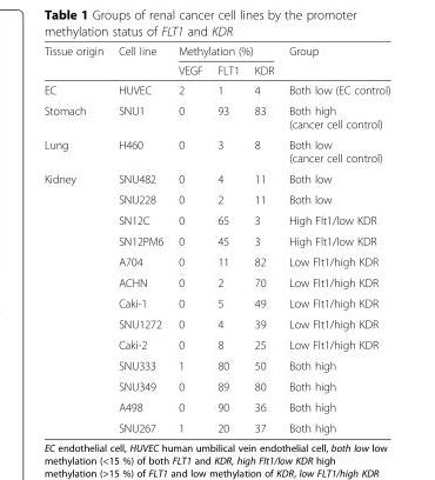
<table><thead><tr><td rowspan="2">Tissue origin</td><td rowspan="2">Cell line</td><td colspan="3">Methylation (%)</td><td rowspan="2">Group</td></tr><tr><td>VEGF</td><td>FLT1</td><td>KDR</td></tr></thead><tbody><tr><td>EC</td><td>HUVEC</td><td>2</td><td>1</td><td>4</td><td>Both low (EC control)</td></tr><tr><td>Stomach</td><td>SNU1</td><td>0</td><td>93</td><td>83</td><td>Both high (cancer cell control)</td></tr><tr><td>Lung</td><td>H460</td><td>0</td><td>3</td><td>8</td><td>Both low (cancer cell control)</td></tr><tr><td rowspan="13">Kidney</td><td>SNU482</td><td>0</td><td>4</td><td>11</td><td>Both low</td></tr><tr><td>SNU228</td><td>0</td><td>2</td><td>11</td><td>Both low</td></tr><tr><td>SN12C</td><td>0</td><td>65</td><td>3</td><td>High Flt1/low KDR</td></tr><tr><td>SN12PM6</td><td>0</td><td>45</td><td>3</td><td>High Flt1/low KDR</td></tr><tr><td>A704</td><td>0</td><td>11</td><td>82</td><td>Low Flt1/high KDR</td></tr><tr><td>ACHN</td><td>0</td><td>2</td><td>70</td><td>Low Flt1/high KDR</td></tr><tr><td>Caki-1</td><td>0</td><td>5</td><td>49</td><td>Low Flt1/high KDR</td></tr><tr><td>SNU1272</td><td>0</td><td>4</td><td>39</td><td>Low Flt1/high KDR</td></tr><tr><td>Caki-2</td><td>0</td><td>8</td><td>25</td><td>Low Flt1/high KDR</td></tr><tr><td>SNU333</td><td>1</td><td>80</td><td>50</td><td>Both high</td></tr><tr><td>SNU349</td><td>0</td><td>89</td><td>80</td><td>Both high</td></tr><tr><td>A498</td><td>0</td><td>90</td><td>36</td><td>Both high</td></tr><tr><td>SNU267</td><td>1</td><td>20</td><td>37</td><td>Both high</td></tr></tbody></table>